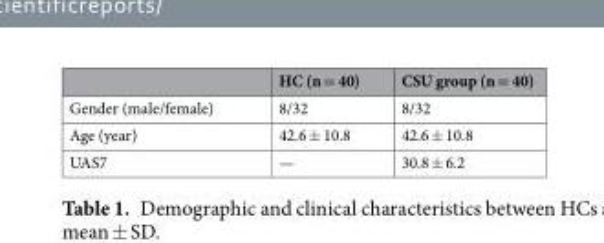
<table><thead><tr><td></td><td>HC (n = 40)</td><td>CSU group (n = 40)</td></tr></thead><tbody><tr><td>Gender (male/female)</td><td>8/32</td><td>8/32</td></tr><tr><td>Age (year)</td><td>42.6 ± 10.8</td><td>42.6 ± 10.8</td></tr><tr><td>UAS7</td><td>—</td><td>30.8 ± 6.2</td></tr></tbody></table>